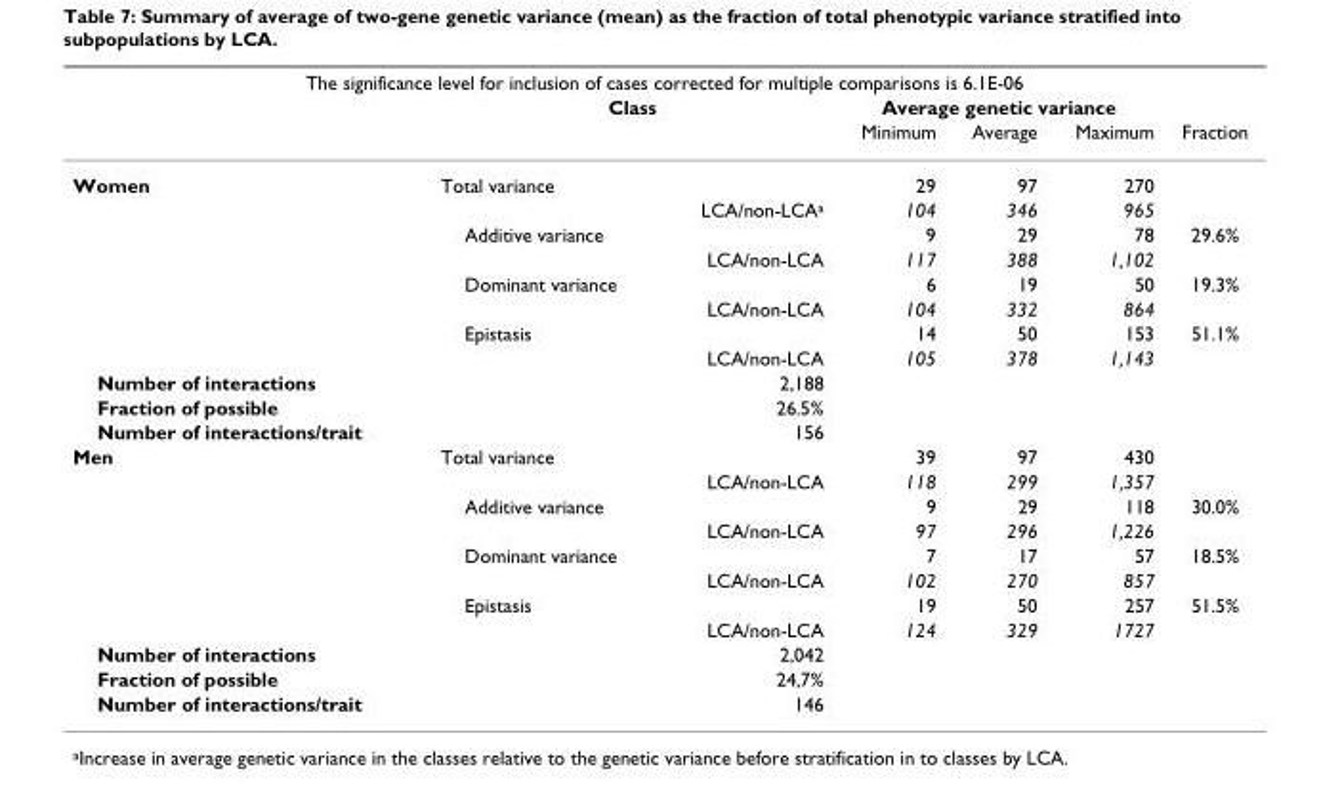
<table><thead><tr><td colspan="7">The significance level for inclusion of cases corrected for multiple comparisons is 6.1E-06</td></tr><tr><td rowspan="2"></td><td colspan="2">Class</td><td colspan="3">Average genetic variance</td><td rowspan="2">Fraction</td></tr><tr><td></td><td></td><td>Minimum</td><td>Average</td><td>Maximum</td></tr></thead><tbody><tr><td rowspan="8">Women</td><td>Total variance</td><td></td><td>29</td><td>97</td><td>270</td><td></td></tr><tr><td></td><td>LCA/non-LCA<sup>a</sup></td><td>104</td><td>346</td><td>965</td><td></td></tr><tr><td>Additive variance</td><td></td><td>9</td><td>29</td><td>78</td><td>29.6%</td></tr><tr><td></td><td>LCA/non-LCA</td><td>117</td><td>388</td><td>1,102</td><td></td></tr><tr><td>Dominant variance</td><td></td><td>6</td><td>19</td><td>50</td><td>19.3%</td></tr><tr><td></td><td>LCA/non-LCA</td><td>104</td><td>332</td><td>864</td><td></td></tr><tr><td>Epistasis</td><td></td><td>14</td><td>50</td><td>153</td><td>51.1%</td></tr><tr><td></td><td>LCA/non-LCA</td><td>105</td><td>378</td><td>1,143</td><td></td></tr><tr><td>Number of interactions</td><td></td><td>2,188</td><td></td><td></td><td></td><td></td></tr><tr><td>Fraction of possible</td><td></td><td>26.5%</td><td></td><td></td><td></td><td></td></tr><tr><td>Number of interactions/trait</td><td></td><td>156</td><td></td><td></td><td></td><td></td></tr><tr><td rowspan="8">Men</td><td>Total variance</td><td></td><td>39</td><td>97</td><td>430</td><td></td></tr><tr><td></td><td>LCA/non-LCA</td><td>118</td><td>299</td><td>1,357</td><td></td></tr><tr><td>Additive variance</td><td></td><td>9</td><td>29</td><td>118</td><td>30.0%</td></tr><tr><td></td><td>LCA/non-LCA</td><td>97</td><td>296</td><td>1,226</td><td></td></tr><tr><td>Dominant variance</td><td></td><td>7</td><td>17</td><td>57</td><td>18.5%</td></tr><tr><td></td><td>LCA/non-LCA</td><td>102</td><td>270</td><td>857</td><td></td></tr><tr><td>Epistasis</td><td></td><td>19</td><td>50</td><td>257</td><td>51.5%</td></tr><tr><td></td><td>LCA/non-LCA</td><td>124</td><td>329</td><td>1727</td><td></td></tr><tr><td>Number of interactions</td><td></td><td>2,042</td><td></td><td></td><td></td><td></td></tr><tr><td>Fraction of possible</td><td></td><td>24,7%</td><td></td><td></td><td></td><td></td></tr><tr><td>Number of interactions/trait</td><td></td><td>146</td><td></td><td></td><td></td><td></td></tr></tbody></table>